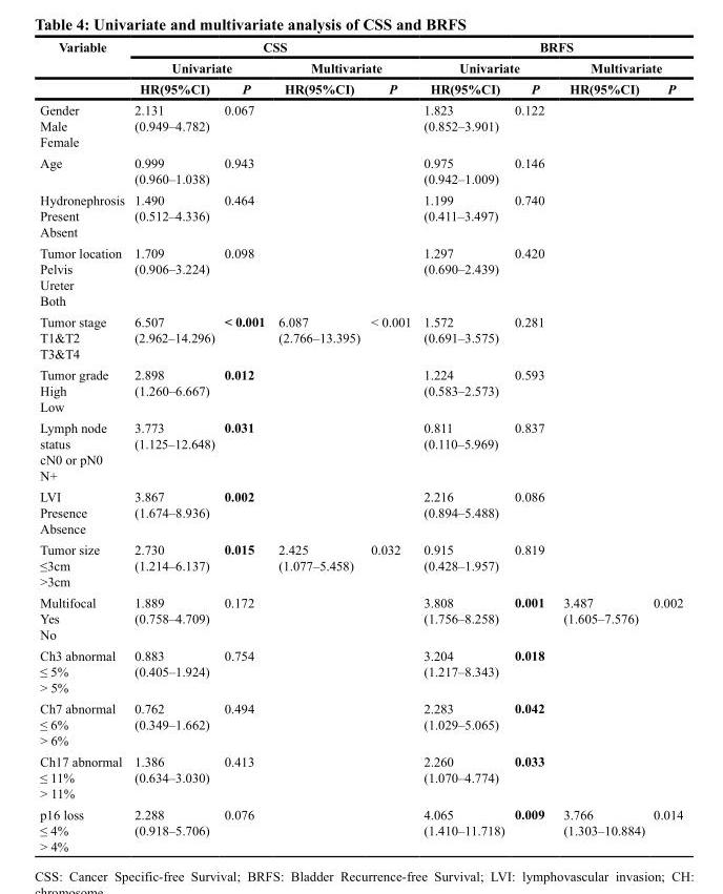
<table><thead><tr><td rowspan="3">Variable</td><td colspan="4">CSS</td><td colspan="4">BRFS</td></tr><tr><td colspan="2">Univariate</td><td colspan="2">Multivariate</td><td colspan="2">Univariate</td><td colspan="2">Multivariate</td></tr><tr><td>HR(95%CI)</td><td>P</td><td>HR(95%CI)</td><td>P</td><td>HR(95%CI)</td><td>P</td><td>HR(95%CI)</td><td>P</td></tr></thead><tbody><tr><td>Gender Male Female</td><td>2.131 (0.949–4.782)</td><td>0.067</td><td></td><td></td><td>1.823 (0.852–3.901)</td><td>0.122</td><td></td><td></td></tr><tr><td>Age</td><td>0.999 (0.960–1.038)</td><td>0.943</td><td></td><td></td><td>0.975 (0.942–1.009)</td><td>0.146</td><td></td><td></td></tr><tr><td>Hydronephrosis Present Absent</td><td>1.490 (0.512–4.336)</td><td>0.464</td><td></td><td></td><td>1.199 (0.411–3.497)</td><td>0.740</td><td></td><td></td></tr><tr><td>Tumor location Pelvis Ureter Both</td><td>1.709 (0.906–3.224)</td><td>0.098</td><td></td><td></td><td>1.297 (0.690–2.439)</td><td>0.420</td><td></td><td></td></tr><tr><td>Tumor stage T1&amp;T2 T3&amp;T4</td><td>6.507 (2.962–14.296)</td><td>&lt; 0.001</td><td>6.087 (2.766–13.395)</td><td>&lt; 0.001</td><td>1.572 (0.691–3.575)</td><td>0.281</td><td></td><td></td></tr><tr><td>Tumor grade High Low</td><td>2.898 (1.260–6.667)</td><td>0.012</td><td></td><td></td><td>1.224 (0.583–2.573)</td><td>0.593</td><td></td><td></td></tr><tr><td>Lymph node status cN0 or pN0 N+</td><td>3.773 (1.125–12.648)</td><td>0.031</td><td></td><td></td><td>0.811 (0.110–5.969)</td><td>0.837</td><td></td><td></td></tr><tr><td>LVI Presence Absence</td><td>3.867 (1.674–8.936)</td><td>0.002</td><td></td><td></td><td>2.216 (0.894–5.488)</td><td>0.086</td><td></td><td></td></tr><tr><td>Tumor size ≤3cm &gt;3cm</td><td>2.730 (1.214–6.137)</td><td>0.015</td><td>2.425 (1.077–5.458)</td><td>0.032</td><td>0.915 (0.428–1.957)</td><td>0.819</td><td></td><td></td></tr><tr><td>Multifocal Yes No</td><td>1.889 (0.758–4.709)</td><td>0.172</td><td></td><td></td><td>3.808 (1.756–8.258)</td><td>0.001</td><td>3.487 (1.605–7.576)</td><td>0.002</td></tr><tr><td>Ch3 abnormal ≤ 5% &gt; 5%</td><td>0.883 (0.405–1.924)</td><td>0.754</td><td></td><td></td><td>3.204 (1.217–8.343)</td><td>0.018</td><td></td><td></td></tr><tr><td>Ch7 abnormal ≤ 6% &gt; 6%</td><td>0.762 (0.349–1.662)</td><td>0.494</td><td></td><td></td><td>2.283 (1.029–5.065)</td><td>0.042</td><td></td><td></td></tr><tr><td>Ch17 abnormal ≤ 11% &gt; 11%</td><td>1.386 (0.634–3.030)</td><td>0.413</td><td></td><td></td><td>2.260 (1.070–4.774)</td><td>0.033</td><td></td><td></td></tr><tr><td>p16 loss ≤ 4% &gt; 4%</td><td>2.288 (0.918–5.706)</td><td>0.076</td><td></td><td></td><td>4.065 (1.410–11.718)</td><td>0.009</td><td>3.766 (1.303–10.884)</td><td>0.014</td></tr></tbody></table>